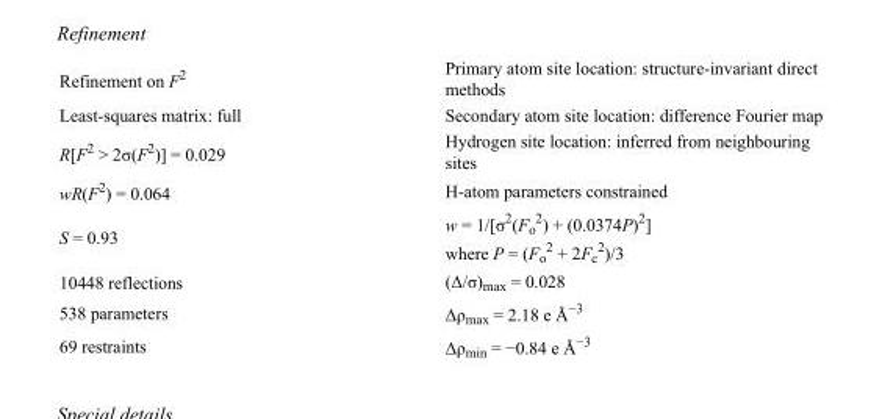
<table><tbody><tr><td>Refinement on F<sup>2</sup></td><td>Primary atom site location: structure-invariant direct methods</td></tr><tr><td>Least-squares matrix: full</td><td>Secondary atom site location: difference Fourier map</td></tr><tr><td>R[F<sup>2</sup> &gt; 2σ(F<sup>2</sup>)] = 0.029</td><td>Hydrogen site location: inferred from neighbouring sites</td></tr><tr><td>wR(F<sup>2</sup>) = 0.064</td><td>H-atom parameters constrained</td></tr><tr><td>S = 0.93</td><td>w = 1/[σ<sup>2</sup>(F<sub>o</sub> <sup>2</sup>) + (0.0374P)<sup>2</sup>] where P = (F<sub>o</sub> <sup>2</sup> + 2F<sub>c</sub> <sup>2</sup>)/3</td></tr><tr><td>10448 reflections</td><td>(Δ/σ)<sub>max</sub> = 0.028</td></tr><tr><td>538 parameters</td><td>Δρ<sub>max</sub> = 2.18 e Å<sup>−3</sup></td></tr><tr><td>69 restraints</td><td>Δρ<sub>min</sub> = −0.84 e Å<sup>−3</sup></td></tr></tbody></table>